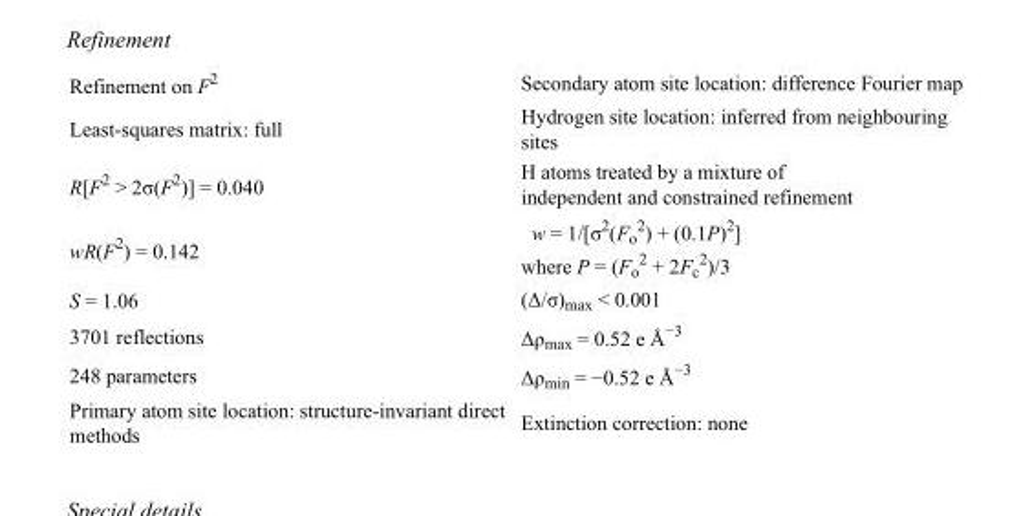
<table><tbody><tr><td>Refinement on F<sup>2</sup></td><td>Secondary atom site location: difference Fourier map</td></tr><tr><td>Least-squares matrix: full</td><td>Hydrogen site location: inferred from neighbouring sites</td></tr><tr><td>R[F<sup>2</sup> &gt; 2σ(F<sup>2</sup>)] = 0.040</td><td>H atoms treated by a mixture of independent and constrained refinement</td></tr><tr><td>wR(F<sup>2</sup>) = 0.142</td><td>w = 1/[σ<sup>2</sup>(F<sub>o</sub> <sup>2</sup>) + (0.1P)<sup>2</sup>] where P = (F<sub>o</sub> <sup>2</sup> + 2F<sub>c</sub> <sup>2</sup>)/3</td></tr><tr><td>S = 1.06</td><td>(Δ/σ)<sub>max</sub> &lt; 0.001</td></tr><tr><td>3701 reflections</td><td>Δρ<sub>max</sub> = 0.52 e Å<sup>−3</sup></td></tr><tr><td>248 parameters</td><td>Δρ<sub>min</sub> = −0.52 e Å<sup>−3</sup></td></tr><tr><td>Primary atom site location: structure-invariant direct methods</td><td>Extinction correction: none</td></tr></tbody></table>